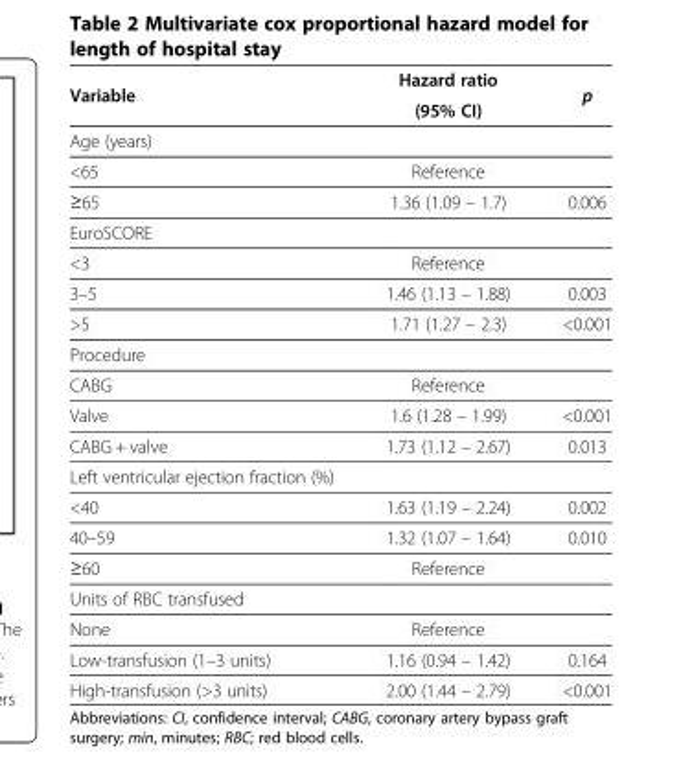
<table><thead><tr><td rowspan="2">Variable</td><td rowspan="2">Hazard ratio (95% CI)</td><td rowspan="2">p</td></tr><tr></tr></thead><tbody><tr><td colspan="3">Age (years)</td></tr><tr><td>&lt;65</td><td>Reference</td><td></td></tr><tr><td>≥65</td><td>1.36 (1.09 – 1.7)</td><td>0.006</td></tr><tr><td colspan="3">EuroSCORE</td></tr><tr><td>&lt;3</td><td>Reference</td><td></td></tr><tr><td>3–5</td><td>1.46 (1.13 – 1.88)</td><td>0.003</td></tr><tr><td>&gt;5</td><td>1.71 (1.27 – 2.3)</td><td>&lt;0.001</td></tr><tr><td colspan="3">Procedure</td></tr><tr><td>CABG</td><td>Reference</td><td></td></tr><tr><td>Valve</td><td>1.6 (1.28 – 1.99)</td><td>&lt;0.001</td></tr><tr><td>CABG + valve</td><td>1.73 (1.12 – 2.67)</td><td>0.013</td></tr><tr><td colspan="3">Left ventricular ejection fraction (%)</td></tr><tr><td>&lt;40</td><td>1.63 (1.19 – 2.24)</td><td>0.002</td></tr><tr><td>40–59</td><td>1.32 (1.07 – 1.64)</td><td>0.010</td></tr><tr><td>≥60</td><td>Reference</td><td></td></tr><tr><td colspan="3">Units of RBC transfused</td></tr><tr><td>None</td><td>Reference</td><td></td></tr><tr><td>Low-transfusion (1–3 units)</td><td>1.16 (0.94 – 1.42)</td><td>0.164</td></tr><tr><td>High-transfusion (&gt;3 units)</td><td>2.00 (1.44 – 2.79)</td><td>&lt;0.001</td></tr></tbody></table>